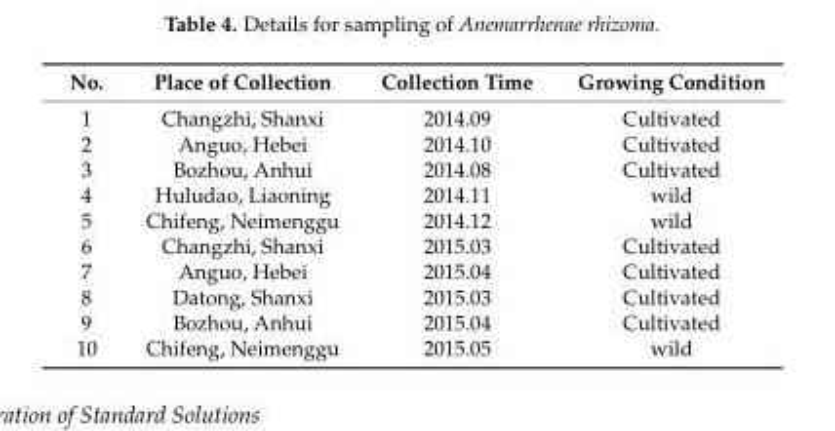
<table><thead><tr><td>No.</td><td>Place of Collection</td><td>Collection Time</td><td>Growing Condition</td></tr></thead><tbody><tr><td>1</td><td>Changzhi, Shanxi</td><td>2014.09</td><td>Cultivated</td></tr><tr><td>2</td><td>Anguo, Hebei</td><td>2014.10</td><td>Cultivated</td></tr><tr><td>3</td><td>Bozhou, Anhui</td><td>2014.08</td><td>Cultivated</td></tr><tr><td>4</td><td>Huludao, Liaoning</td><td>2014.11</td><td>wild</td></tr><tr><td>5</td><td>Chifeng, Neimenggu</td><td>2014.12</td><td>wild</td></tr><tr><td>6</td><td>Changzhi, Shanxi</td><td>2015.03</td><td>Cultivated</td></tr><tr><td>7</td><td>Anguo, Hebei</td><td>2015.04</td><td>Cultivated</td></tr><tr><td>8</td><td>Datong, Shanxi</td><td>2015.03</td><td>Cultivated</td></tr><tr><td>9</td><td>Bozhou, Anhui</td><td>2015.04</td><td>Cultivated</td></tr><tr><td>10</td><td>Chifeng, Neimenggu</td><td>2015.05</td><td>wild</td></tr></tbody></table>